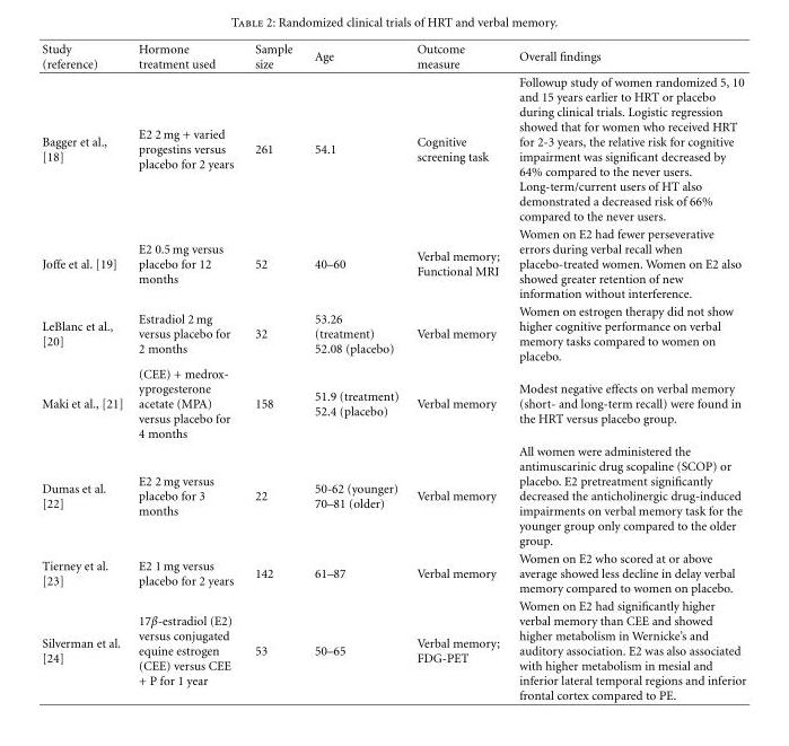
<table><thead><tr><td>Study (reference)</td><td>Hormone treatment used</td><td>Sample size</td><td>Age</td><td>Outcome measure</td><td>Overall findings</td></tr></thead><tbody><tr><td>Bagger et al., [18]</td><td>E2 2 mg + varied progestins versus placebo for 2 years</td><td>261</td><td>54.1</td><td>Cognitive screening task</td><td>Followup study of women randomized 5, 10 and 15 years earlier to HRT or placebo during clinical trials. Logistic regression showed that for women who received HRT for 2-3 years, the relative risk for cognitive impairment was significant decreased by 64% compared to the never users. Long-term/current users of HT also demonstrated a decreased risk of 66% compared to the never users.</td></tr><tr><td>Joffe et al. [19]</td><td>E2 0.5 mg versus placebo for 12 months</td><td>52</td><td>40–60</td><td>Verbal memory; Functional MRI</td><td>Women on E2 had fewer perseverative errors during verbal recall when placebo-treated women. Women on E2 also showed greater retention of new information without interference.</td></tr><tr><td>LeBlanc et al., [20]</td><td>Estradiol 2 mg versus placebo for 2 months</td><td>32</td><td>53.26 (treatment) 52.08 (placebo)</td><td>Verbal memory</td><td>Women on estrogen therapy did not show higher cognitive performance on verbal memory tasks compared to women on placebo.</td></tr><tr><td>Maki et al., [21]</td><td>(CEE) + medrox- yprogesterone acetate (MPA) versus placebo for 4 months</td><td>158</td><td>51.9 (treatment) 52.4 (placebo)</td><td>Verbal memory</td><td>Modest negative effects on verbal memory (short- and long-term recall) were found in the HRT versus placebo group.</td></tr><tr><td>Dumas et al. [22]</td><td>E2 2 mg versus placebo for 3 months</td><td>22</td><td>50-62 (younger) 70–81 (older)</td><td>Verbal memory</td><td>All women were administered the antimuscarinic drug scopaline (SCOP) or placebo. E2 pretreatment significantly decreased the anticholinergic drug-induced impairments on verbal memory task for the younger group only compared to the older group.</td></tr><tr><td>Tierney et al. [23]</td><td>E2 1 mg versus placebo for 2 years</td><td>142</td><td>61–87</td><td>Verbal memory</td><td>Women on E2 who scored at or above average showed less decline in delay verbal memory compared to women on placebo.</td></tr><tr><td>Silverman et al. [24]</td><td>17β-estradiol (E2) versus conjugated equine estrogen (CEE) versus CEE + P for 1 year</td><td>53</td><td>50–65</td><td>Verbal memory; FDG-PET</td><td>Women on E2 had significantly higher verbal memory than CEE and showed higher metabolism in Wernicke’s and auditory association. E2 was also associated with higher metabolism in mesial and inferior lateral temporal regions and inferior frontal cortex compared to PE.</td></tr></tbody></table>